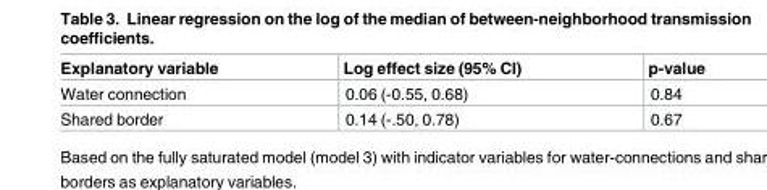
<table><thead><tr><td>Explanatory variable</td><td>Log effect size (95% CI)</td><td>p-value</td></tr></thead><tbody><tr><td>Water connection</td><td>0.06 (-0.55, 0.68)</td><td>0.84</td></tr><tr><td>Shared border</td><td>0.14 (-.50, 0.78)</td><td>0.67</td></tr></tbody></table>